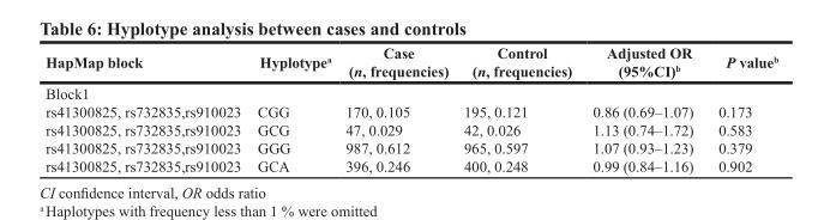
<table><thead><tr><td>HapMap block</td><td>Hyplotype<sup>a</sup></td><td>Case (n, frequencies)</td><td>Control (n, frequencies)</td><td>Adjusted OR (95%CI)<sup>b</sup></td><td>P value<sup>b</sup></td></tr></thead><tbody><tr><td colspan="6">Block1</td></tr><tr><td>rs41300825, rs732835,rs910023</td><td>CGG</td><td>170, 0.105</td><td>195, 0.121</td><td>0.86 (0.69–1.07)</td><td>0.173</td></tr><tr><td>rs41300825, rs732835,rs910023</td><td>GCG</td><td>47, 0.029</td><td>42, 0.026</td><td>1.13 (0.74–1.72)</td><td>0.583</td></tr><tr><td>rs41300825, rs732835,rs910023</td><td>GGG</td><td>987, 0.612</td><td>965, 0.597</td><td>1.07 (0.93–1.23)</td><td>0.379</td></tr><tr><td>rs41300825, rs732835,rs910023</td><td>GCA</td><td>396, 0.246</td><td>400, 0.248</td><td>0.99 (0.84–1.16)</td><td>0.902</td></tr></tbody></table>